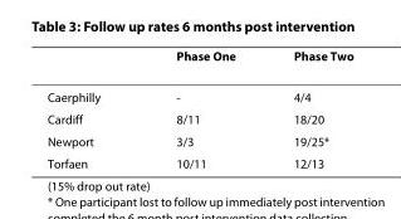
<table><thead><tr><td></td><td>Phase One</td><td>Phase Two</td></tr></thead><tbody><tr><td>Caerphilly</td><td>-</td><td>4/4</td></tr><tr><td>Cardiff</td><td>8/11</td><td>18/20</td></tr><tr><td>Newport</td><td>3/3</td><td>19/25*</td></tr><tr><td>Torfaen</td><td>10/11</td><td>12/13</td></tr></tbody></table>